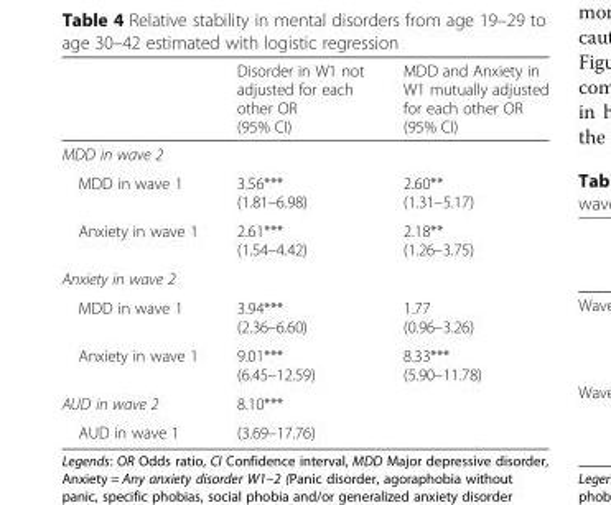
<table><thead><tr><td></td><td>Disorder in W1 not adjusted for each other OR (95% CI)</td><td>MDD and Anxiety in W1 mutually adjusted for each other OR (95% CI)</td></tr></thead><tbody><tr><td colspan="3">MDD in wave 2</td></tr><tr><td>MDD in wave 1</td><td>3.56*** (1.81–6.98)</td><td>2.60** (1.31–5.17)</td></tr><tr><td>Anxiety in wave 1</td><td>2.61*** (1.54–4.42)</td><td>2.18** (1.26–3.75)</td></tr><tr><td colspan="3">Anxiety in wave 2</td></tr><tr><td>MDD in wave 1</td><td>3.94*** (2.36–6.60)</td><td>1.77 (0.96–3.26)</td></tr><tr><td>Anxiety in wave 1</td><td>9.01*** (6.45–12.59)</td><td>8.33*** (5.90–11.78)</td></tr><tr><td>AUD in wave 2</td><td>8.10***</td><td></td></tr><tr><td>AUD in wave 1</td><td>(3.69–17.76)</td><td></td></tr></tbody></table>